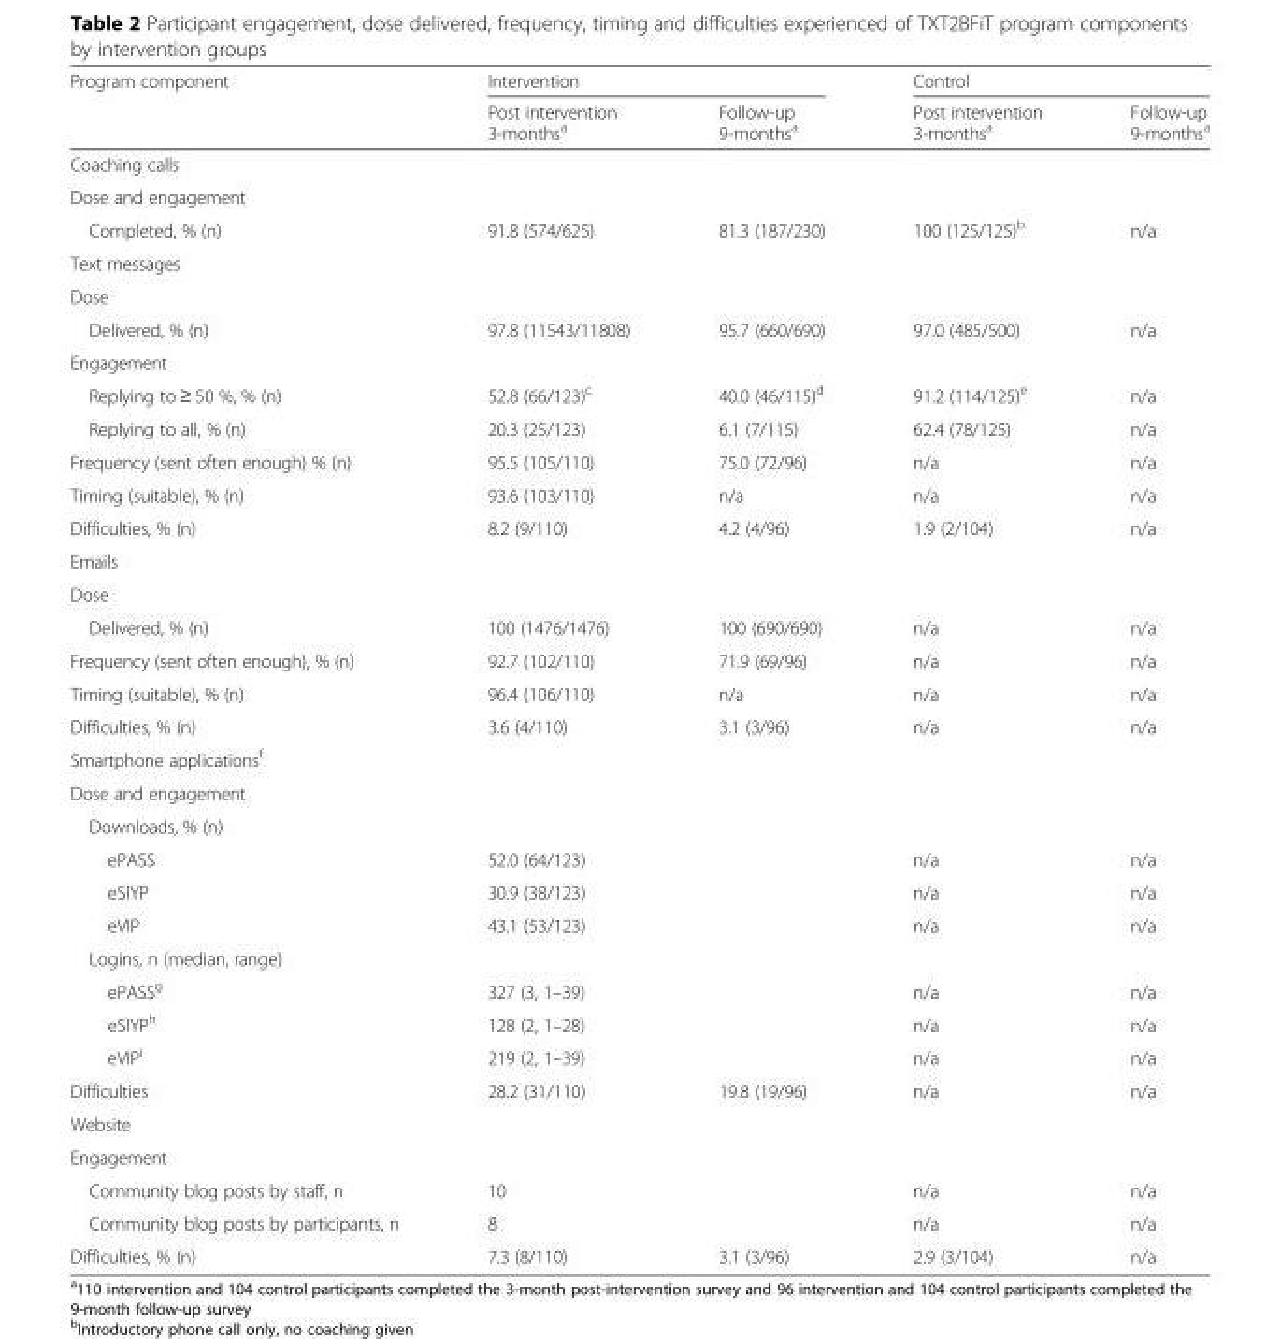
<table><thead><tr><td rowspan="2">Program component</td><td colspan="2">Intervention</td><td colspan="2">Control</td></tr><tr><td>Post intervention 3-months<sup>a</sup></td><td>Follow-up 9-months<sup>a</sup></td><td>Post intervention 3-months<sup>a</sup></td><td>Follow-up 9-months<sup>a</sup></td></tr></thead><tbody><tr><td colspan="5">Coaching calls</td></tr><tr><td colspan="5">Dose and engagement</td></tr><tr><td>Completed, % (n)</td><td>91.8 (574/625)</td><td>81.3 (187/230)</td><td>100 (125/125)<sup>b</sup></td><td>n/a</td></tr><tr><td colspan="5">Text messages</td></tr><tr><td colspan="5">Dose</td></tr><tr><td>Delivered, % (n)</td><td>97.8 (11543/11808)</td><td>95.7 (660/690)</td><td>97.0 (485/500)</td><td>n/a</td></tr><tr><td colspan="5">Engagement</td></tr><tr><td>Replying to ≥ 50 %, % (n)</td><td>52.8 (66/123)<sup>c</sup></td><td>40.0 (46/115)<sup>d</sup></td><td>91.2 (114/125)<sup>e</sup></td><td>n/a</td></tr><tr><td>Replying to all, % (n)</td><td>20.3 (25/123)</td><td>6.1 (7/115)</td><td>62.4 (78/125)</td><td>n/a</td></tr><tr><td>Frequency (sent often enough) % (n)</td><td>95.5 (105/110)</td><td>75.0 (72/96)</td><td>n/a</td><td>n/a</td></tr><tr><td>Timing (suitable), % (n)</td><td>93.6 (103/110)</td><td>n/a</td><td>n/a</td><td>n/a</td></tr><tr><td>Difficulties, % (n)</td><td>8.2 (9/110)</td><td>4.2 (4/96)</td><td>1.9 (2/104)</td><td>n/a</td></tr><tr><td colspan="5">Emails</td></tr><tr><td colspan="5">Dose</td></tr><tr><td>Delivered, % (n)</td><td>100 (1476/1476)</td><td>100 (690/690)</td><td>n/a</td><td>n/a</td></tr><tr><td>Frequency (sent often enough), % (n)</td><td>92.7 (102/110)</td><td>71.9 (69/96)</td><td>n/a</td><td>n/a</td></tr><tr><td>Timing (suitable), % (n)</td><td>96.4 (106/110)</td><td>n/a</td><td>n/a</td><td>n/a</td></tr><tr><td>Difficulties, % (n)</td><td>3.6 (4/110)</td><td>3.1 (3/96)</td><td>n/a</td><td>n/a</td></tr><tr><td colspan="5">Smartphone applications<sup>f</sup></td></tr><tr><td colspan="5">Dose and engagement</td></tr><tr><td colspan="5">Downloads, % (n)</td></tr><tr><td>ePASS</td><td>52.0 (64/123)</td><td></td><td>n/a</td><td>n/a</td></tr><tr><td>eSIYP</td><td>30.9 (38/123)</td><td></td><td>n/a</td><td>n/a</td></tr><tr><td>eVIP</td><td>43.1 (53/123)</td><td></td><td>n/a</td><td>n/a</td></tr><tr><td colspan="5">Logins, n (median, range)</td></tr><tr><td>ePASS<sup>g</sup></td><td>327 (3, 1–39)</td><td></td><td>n/a</td><td>n/a</td></tr><tr><td>eSIYP<sup>h</sup></td><td>128 (2, 1–28)</td><td></td><td>n/a</td><td>n/a</td></tr><tr><td>eVIP<sup>i</sup></td><td>219 (2, 1–39)</td><td></td><td>n/a</td><td>n/a</td></tr><tr><td>Difficulties</td><td>28.2 (31/110)</td><td>19.8 (19/96)</td><td>n/a</td><td>n/a</td></tr><tr><td colspan="5">Website</td></tr><tr><td colspan="5">Engagement</td></tr><tr><td>Community blog posts by staff, n</td><td>10</td><td></td><td>n/a</td><td>n/a</td></tr><tr><td>Community blog posts by participants, n</td><td>8</td><td></td><td>n/a</td><td>n/a</td></tr><tr><td>Difficulties, % (n)</td><td>7.3 (8/110)</td><td>3.1 (3/96)</td><td>2.9 (3/104)</td><td>n/a</td></tr></tbody></table>